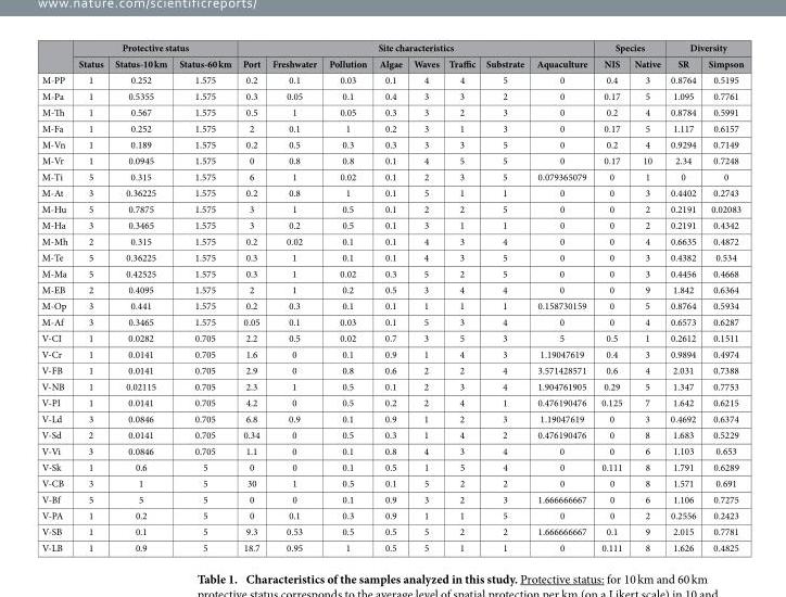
<table><thead><tr><td rowspan="2"></td><td colspan="3">Protective status</td><td colspan="8">Site characteristics</td><td colspan="2">Species</td><td colspan="2">Diversity</td></tr><tr><td>Status</td><td>Status-10 km</td><td>Status-60 km</td><td>Port</td><td>Freshwater</td><td>Pollution</td><td>Algae</td><td>Waves</td><td>Traffic</td><td>Substrate</td><td>Aquaculture</td><td>NIS</td><td>Native</td><td>SR</td><td>Simpson</td></tr></thead><tbody><tr><td>M-PP</td><td>1</td><td>0.252</td><td>1.575</td><td>0.2</td><td>0.1</td><td>0.03</td><td>0.1</td><td>4</td><td>4</td><td>5</td><td>0</td><td>0.4</td><td>3</td><td>0.8764</td><td>0.5195</td></tr><tr><td>M-Pa</td><td>1</td><td>0.5355</td><td>1.575</td><td>0.3</td><td>0.05</td><td>0.1</td><td>0.4</td><td>3</td><td>3</td><td>2</td><td>0</td><td>0.17</td><td>5</td><td>1.095</td><td>0.7761</td></tr><tr><td>M-Th</td><td>1</td><td>0.567</td><td>1.575</td><td>0.5</td><td>1</td><td>0.05</td><td>0.3</td><td>3</td><td>2</td><td>3</td><td>0</td><td>0.2</td><td>4</td><td>0.8784</td><td>0.5991</td></tr><tr><td>M-Fa</td><td>1</td><td>0.252</td><td>1.575</td><td>2</td><td>0.1</td><td>1</td><td>0.2</td><td>3</td><td>1</td><td>3</td><td>0</td><td>0.17</td><td>5</td><td>1.117</td><td>0.6157</td></tr><tr><td>M-Vn</td><td>1</td><td>0.189</td><td>1.575</td><td>0.2</td><td>0.5</td><td>0.3</td><td>0.3</td><td>3</td><td>3</td><td>5</td><td>0</td><td>0.2</td><td>4</td><td>0.9294</td><td>0.7149</td></tr><tr><td>M-Vr</td><td>1</td><td>0.0945</td><td>1.575</td><td>0</td><td>0.8</td><td>0.8</td><td>0.1</td><td>4</td><td>5</td><td>5</td><td>0</td><td>0.17</td><td>10</td><td>2.34</td><td>0.7248</td></tr><tr><td>M-Ti</td><td>5</td><td>0.315</td><td>1.575</td><td>6</td><td>1</td><td>0.02</td><td>0.1</td><td>2</td><td>3</td><td>5</td><td>0.079365079</td><td>0</td><td>1</td><td>0</td><td>0</td></tr><tr><td>M-At</td><td>3</td><td>0.36225</td><td>1.575</td><td>0.2</td><td>0.8</td><td>1</td><td>0.1</td><td>5</td><td>1</td><td>1</td><td>0</td><td>0</td><td>3</td><td>0.4402</td><td>0.2743</td></tr><tr><td>M-Hu</td><td>5</td><td>0.7875</td><td>1.575</td><td>3</td><td>1</td><td>0.5</td><td>0.1</td><td>2</td><td>2</td><td>5</td><td>0</td><td>0</td><td>2</td><td>0.2191</td><td>0.02083</td></tr><tr><td>M-Ha</td><td>3</td><td>0.3465</td><td>1.575</td><td>3</td><td>0.2</td><td>0.5</td><td>0.1</td><td>3</td><td>1</td><td>1</td><td>0</td><td>0</td><td>2</td><td>0.2191</td><td>0.4342</td></tr><tr><td>M-Mh</td><td>2</td><td>0.315</td><td>1.575</td><td>0.2</td><td>0.02</td><td>0.1</td><td>0.1</td><td>4</td><td>3</td><td>4</td><td>0</td><td>0</td><td>4</td><td>0.6635</td><td>0.4872</td></tr><tr><td>M-Te</td><td>5</td><td>0.36225</td><td>1.575</td><td>0.3</td><td>1</td><td>0.1</td><td>0.1</td><td>4</td><td>3</td><td>5</td><td>0</td><td>0</td><td>3</td><td>0.4382</td><td>0.534</td></tr><tr><td>M-Ma</td><td>5</td><td>0.42525</td><td>1.575</td><td>0.3</td><td>1</td><td>0.02</td><td>0.3</td><td>5</td><td>2</td><td>5</td><td>0</td><td>0</td><td>3</td><td>0.4456</td><td>0.4668</td></tr><tr><td>M-EB</td><td>2</td><td>0.4095</td><td>1.575</td><td>2</td><td>1</td><td>0.2</td><td>0.5</td><td>3</td><td>4</td><td>4</td><td>0</td><td>0</td><td>9</td><td>1.842</td><td>0.6364</td></tr><tr><td>M-Op</td><td>3</td><td>0.441</td><td>1.575</td><td>0.2</td><td>0.3</td><td>0.1</td><td>0.1</td><td>1</td><td>1</td><td>1</td><td>0.158730159</td><td>0</td><td>5</td><td>0.8764</td><td>0.5934</td></tr><tr><td>M-Af</td><td>3</td><td>0.3465</td><td>1.575</td><td>0.05</td><td>0.1</td><td>0.03</td><td>0.1</td><td>5</td><td>3</td><td>4</td><td>0</td><td>0</td><td>4</td><td>0.6573</td><td>0.6287</td></tr><tr><td>V-CI</td><td>1</td><td>0.0282</td><td>0.705</td><td>2.2</td><td>0.5</td><td>0.02</td><td>0.7</td><td>3</td><td>5</td><td>3</td><td>5</td><td>0.5</td><td>1</td><td>0.2612</td><td>0.1511</td></tr><tr><td>V-Cr</td><td>1</td><td>0.0141</td><td>0.705</td><td>1.6</td><td>0</td><td>0.1</td><td>0.9</td><td>1</td><td>4</td><td>3</td><td>1.19047619</td><td>0.4</td><td>3</td><td>0.9894</td><td>0.4974</td></tr><tr><td>V-FB</td><td>1</td><td>0.0141</td><td>0.705</td><td>2.9</td><td>0</td><td>0.8</td><td>0.6</td><td>2</td><td>2</td><td>4</td><td>3.571428571</td><td>0.6</td><td>4</td><td>2.031</td><td>0.7388</td></tr><tr><td>V-NB</td><td>1</td><td>0.02115</td><td>0.705</td><td>2.3</td><td>1</td><td>0.5</td><td>0.1</td><td>2</td><td>3</td><td>4</td><td>1.904761905</td><td>0.29</td><td>5</td><td>1.347</td><td>0.7753</td></tr><tr><td>V-PI</td><td>1</td><td>0.0141</td><td>0.705</td><td>4.2</td><td>0</td><td>0.5</td><td>0.2</td><td>2</td><td>4</td><td>1</td><td>0.476190476</td><td>0.125</td><td>7</td><td>1.642</td><td>0.6215</td></tr><tr><td>V-Ld</td><td>3</td><td>0.0846</td><td>0.705</td><td>6.8</td><td>0.9</td><td>0.1</td><td>0.9</td><td>1</td><td>2</td><td>3</td><td>1.19047619</td><td>0</td><td>3</td><td>0.4692</td><td>0.6374</td></tr><tr><td>V-Sd</td><td>2</td><td>0.0141</td><td>0.705</td><td>0.34</td><td>0</td><td>0.5</td><td>0.3</td><td>1</td><td>4</td><td>2</td><td>0.476190476</td><td>0</td><td>8</td><td>1.683</td><td>0.5229</td></tr><tr><td>V-Vi</td><td>3</td><td>0.0846</td><td>0.705</td><td>1.1</td><td>0</td><td>0.1</td><td>0.8</td><td>4</td><td>3</td><td>4</td><td>0</td><td>0</td><td>6</td><td>1.103</td><td>0.653</td></tr><tr><td>V-Sk</td><td>1</td><td>0.6</td><td>5</td><td>0</td><td>0</td><td>0.1</td><td>0.5</td><td>1</td><td>5</td><td>4</td><td>0</td><td>0.111</td><td>8</td><td>1.791</td><td>0.6289</td></tr><tr><td>V-CB</td><td>3</td><td>1</td><td>5</td><td>30</td><td>1</td><td>0.5</td><td>0.1</td><td>5</td><td>2</td><td>2</td><td>0</td><td>0</td><td>8</td><td>1.571</td><td>0.691</td></tr><tr><td>V-Bf</td><td>5</td><td>5</td><td>5</td><td>0</td><td>0</td><td>0.1</td><td>0.9</td><td>3</td><td>2</td><td>3</td><td>1.666666667</td><td>0</td><td>6</td><td>1.106</td><td>0.7275</td></tr><tr><td>V-PA</td><td>1</td><td>0.2</td><td>5</td><td>0</td><td>0.1</td><td>0.3</td><td>0.9</td><td>1</td><td>1</td><td>5</td><td>0</td><td>0</td><td>2</td><td>0.2556</td><td>0.2423</td></tr><tr><td>V-SB</td><td>1</td><td>0.1</td><td>5</td><td>9.3</td><td>0.53</td><td>0.5</td><td>0.5</td><td>5</td><td>2</td><td>2</td><td>1.666666667</td><td>0.1</td><td>9</td><td>2.015</td><td>0.7781</td></tr><tr><td>V-LB</td><td>1</td><td>0.9</td><td>5</td><td>18.7</td><td>0.95</td><td>1</td><td>0.5</td><td>5</td><td>1</td><td>1</td><td>0</td><td>0.111</td><td>8</td><td>1.626</td><td>0.4825</td></tr></tbody></table>